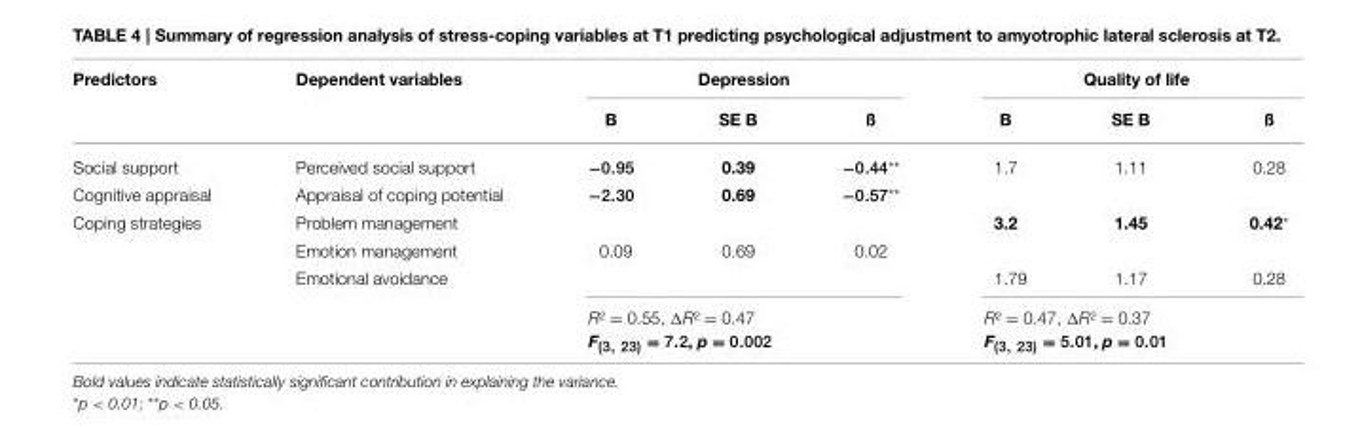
<table><thead><tr><td rowspan="2">Predictors</td><td rowspan="2">Dependent variables</td><td colspan="3">Depression</td><td colspan="3">Quality of life</td></tr><tr><td>B</td><td>SE B</td><td>ß</td><td>B</td><td>SE B</td><td>ß</td></tr></thead><tbody><tr><td>Social support</td><td>Perceived social support</td><td>−0.95</td><td>0.39</td><td>−0.44**</td><td>1.7</td><td>1.11</td><td>0.28</td></tr><tr><td>Cognitive appraisal</td><td>Appraisal of coping potential</td><td>−2.30</td><td>0.69</td><td>−0.57**</td><td></td><td></td><td></td></tr><tr><td rowspan="4">Coping strategies</td><td>Problem management</td><td></td><td></td><td></td><td>3.2</td><td>1.45</td><td>0.42*</td></tr><tr><td>Emotion management</td><td>0.09</td><td>0.69</td><td>0.02</td><td></td><td></td><td></td></tr><tr><td>Emotional avoidance</td><td></td><td></td><td></td><td>1.79</td><td>1.17</td><td>0.28</td></tr><tr><td></td><td colspan="3">R² = 0.55, ΔR² = 0.47 F<sub>(3, 23)</sub> = 7.2, p = 0.002</td><td colspan="3">R² = 0.47, ΔR² = 0.37 F<sub>(3, 23)</sub> = 5.01, p = 0.01</td></tr></tbody></table>